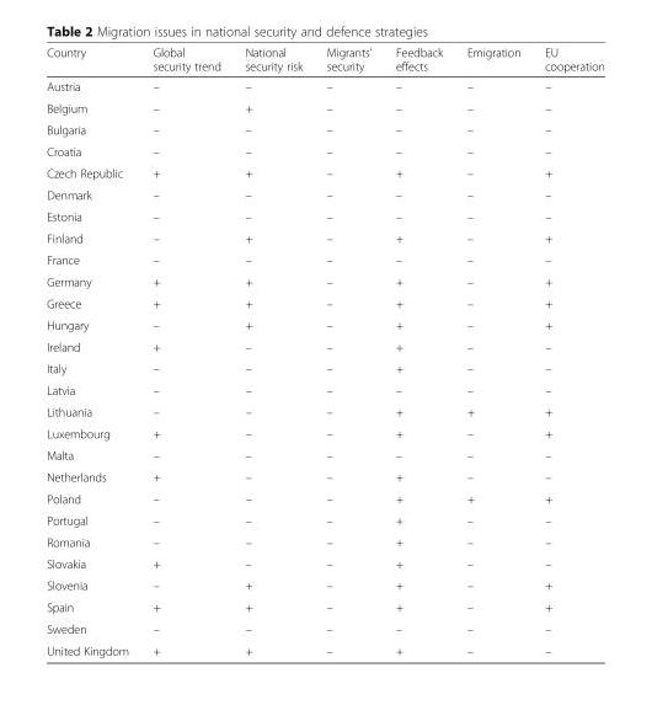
<table><thead><tr><td>Country</td><td>Global security trend</td><td>National security risk</td><td>Migrants’ security</td><td>Feedback effects</td><td>Emigration</td><td>EU cooperation</td></tr></thead><tbody><tr><td>Austria</td><td>–</td><td>–</td><td>–</td><td>–</td><td>–</td><td>–</td></tr><tr><td>Belgium</td><td>–</td><td>+</td><td>–</td><td>–</td><td>–</td><td>–</td></tr><tr><td>Bulgaria</td><td>–</td><td>–</td><td>–</td><td>–</td><td>–</td><td>–</td></tr><tr><td>Croatia</td><td>–</td><td>–</td><td>–</td><td>–</td><td>–</td><td>–</td></tr><tr><td>Czech Republic</td><td>+</td><td>+</td><td>–</td><td>+</td><td>–</td><td>+</td></tr><tr><td>Denmark</td><td>–</td><td>–</td><td>–</td><td>–</td><td>–</td><td>–</td></tr><tr><td>Estonia</td><td>–</td><td>–</td><td>–</td><td>–</td><td>–</td><td>–</td></tr><tr><td>Finland</td><td>–</td><td>+</td><td>–</td><td>+</td><td>–</td><td>+</td></tr><tr><td>France</td><td>–</td><td>–</td><td>–</td><td>–</td><td>–</td><td>–</td></tr><tr><td>Germany</td><td>+</td><td>+</td><td>–</td><td>+</td><td>–</td><td>+</td></tr><tr><td>Greece</td><td>+</td><td>+</td><td>–</td><td>+</td><td>–</td><td>+</td></tr><tr><td>Hungary</td><td>–</td><td>+</td><td>–</td><td>+</td><td>–</td><td>+</td></tr><tr><td>Ireland</td><td>+</td><td>–</td><td>–</td><td>+</td><td>–</td><td>–</td></tr><tr><td>Italy</td><td>–</td><td>–</td><td>–</td><td>+</td><td>–</td><td>–</td></tr><tr><td>Latvia</td><td>–</td><td>–</td><td>–</td><td>–</td><td>–</td><td>–</td></tr><tr><td>Lithuania</td><td>–</td><td>–</td><td>–</td><td>+</td><td>+</td><td>+</td></tr><tr><td>Luxembourg</td><td>+</td><td>–</td><td>–</td><td>+</td><td>–</td><td>+</td></tr><tr><td>Malta</td><td>–</td><td>–</td><td>–</td><td>–</td><td>–</td><td>–</td></tr><tr><td>Netherlands</td><td>+</td><td>–</td><td>–</td><td>+</td><td>–</td><td>–</td></tr><tr><td>Poland</td><td>–</td><td>–</td><td>–</td><td>+</td><td>+</td><td>+</td></tr><tr><td>Portugal</td><td>–</td><td>–</td><td>–</td><td>+</td><td>–</td><td>–</td></tr><tr><td>Romania</td><td>–</td><td>–</td><td>–</td><td>+</td><td>–</td><td>–</td></tr><tr><td>Slovakia</td><td>+</td><td>–</td><td>–</td><td>+</td><td>–</td><td>–</td></tr><tr><td>Slovenia</td><td>–</td><td>+</td><td>–</td><td>+</td><td>–</td><td>+</td></tr><tr><td>Spain</td><td>+</td><td>+</td><td>–</td><td>+</td><td>–</td><td>+</td></tr><tr><td>Sweden</td><td>–</td><td>–</td><td>–</td><td>–</td><td>–</td><td>–</td></tr><tr><td>United Kingdom</td><td>+</td><td>+</td><td>–</td><td>+</td><td>–</td><td>–</td></tr></tbody></table>